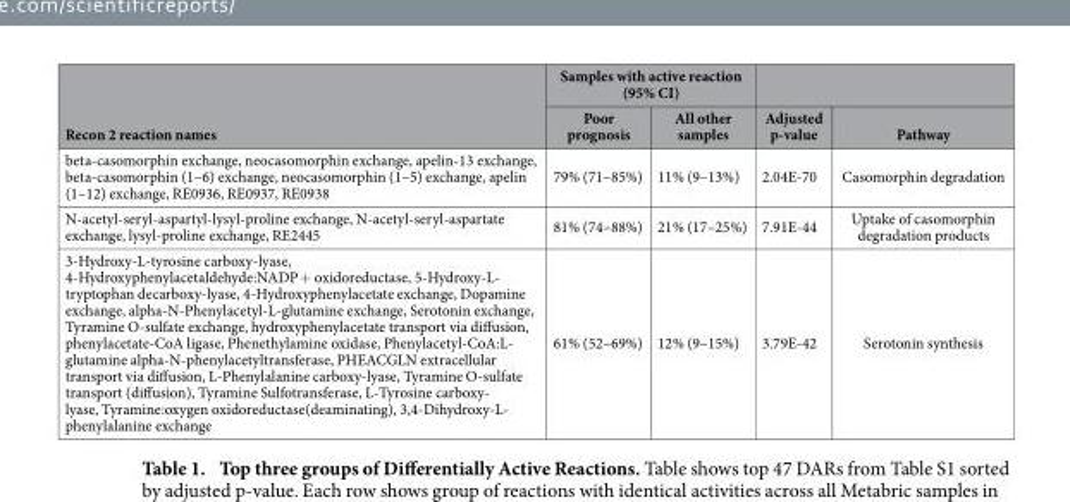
<table><thead><tr><td rowspan="2">Recon 2 reaction names</td><td colspan="2">Samples with active reaction (95% CI)</td><td rowspan="2">Adjusted p-value</td><td rowspan="2">Pathway</td></tr><tr><td>Poor prognosis</td><td>All other samples</td></tr></thead><tbody><tr><td>beta-casomorphin exchange, neocasomorphin exchange, apelin-13 exchange, beta-casomorphin (1–6) exchange, neocasomorphin (1–5) exchange, apelin (1–12) exchange, RE0936, RE0937, RE0938</td><td>79% (71–85%)</td><td>11% (9–13%)</td><td>2.04E-70</td><td>Casomorphin degradation</td></tr><tr><td>N-acetyl-seryl-aspartyl-lysyl-proline exchange, N-acetyl-seryl-aspartate exchange, lysyl-proline exchange, RE2445</td><td>81% (74–88%)</td><td>21% (17–25%)</td><td>7.91E-44</td><td>Uptake of casomorphin degradation products</td></tr><tr><td>3-Hydroxy-L-tyrosine carboxy-lyase, 4-Hydroxyphenylacetaldehyde:NADP + oxidoreductase, 5-Hydroxy-L- tryptophan decarboxy-lyase, 4-Hydroxyphenylacetate exchange, Dopamine exchange, alpha-N-Phenylacetyl-L-glutamine exchange, Serotonin exchange, Tyramine O-sulfate exchange, hydroxyphenylacetate transport via diffusion, phenylacetate-CoA ligase, Phenethylamine oxidase, Phenylacetyl-CoA:L- glutamine alpha-N-phenylacetyltransferase, PHEACGLN extracellular transport via diffusion, L-Phenylalanine carboxy-lyase, Tyramine O-sulfate transport (diffusion), Tyramine Sulfotransferase, L-Tyrosine carboxy- lyase, Tyramine:oxygen oxidoreductase(deaminating), 3,4-Dihydroxy-L- phenylalanine exchange</td><td>61% (52–69%)</td><td>12% (9–15%)</td><td>3.79E-42</td><td>Serotonin synthesis</td></tr></tbody></table>